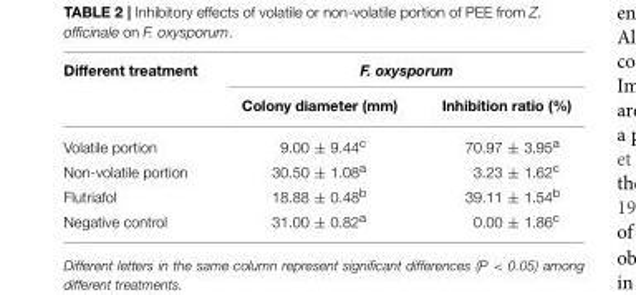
<table><thead><tr><td rowspan="2">Different treatment</td><td colspan="2">F. oxysporum</td></tr><tr><td>Colony diameter (mm)</td><td>Inhibition ratio (%)</td></tr></thead><tbody><tr><td>Volatile portion</td><td>9.00 ± 9.44<sup>c</sup></td><td>70.97 ± 3.95<sup>a</sup></td></tr><tr><td>Non-volatile portion</td><td>30.50 ± 1.08<sup>a</sup></td><td>3.23 ± 1.62<sup>c</sup></td></tr><tr><td>Flutriafol</td><td>18.88 ± 0.48<sup>b</sup></td><td>39.11 ± 1.54<sup>b</sup></td></tr><tr><td>Negative control</td><td>31.00 ± 0.82<sup>a</sup></td><td>0.00 ± 1.86<sup>c</sup></td></tr></tbody></table>